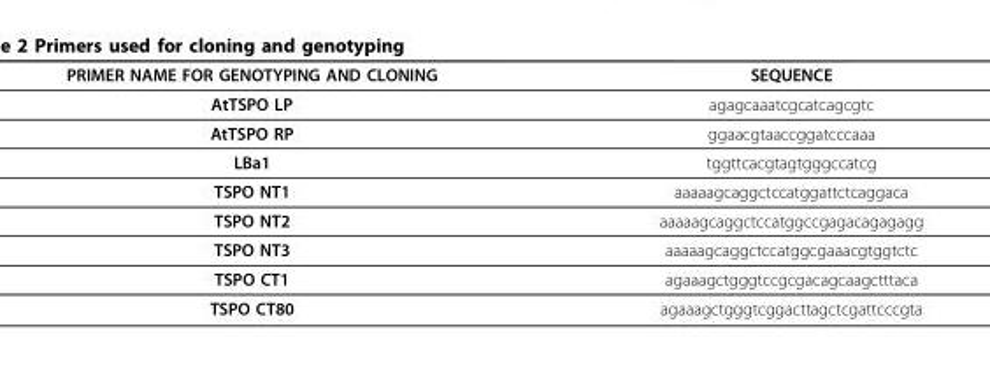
<table><thead><tr><td>PRIMER NAME FOR GENOTYPING AND CLONING</td><td>SEQUENCE</td></tr></thead><tbody><tr><td>AtTSPO LP</td><td>agagcaaatcgcatcagcgtc</td></tr><tr><td>AtTSPO RP</td><td>ggaacgtaaccggatcccaaa</td></tr><tr><td>LBa1</td><td>tggttcacgtagtgggccatcg</td></tr><tr><td>TSPO NT1</td><td>aaaaagcaggctccatggattctcaggaca</td></tr><tr><td>TSPO NT2</td><td>aaaaagcaggctccatggccgagacagagagg</td></tr><tr><td>TSPO NT3</td><td>aaaaagcaggctccatggcgaaacgtggtctc</td></tr><tr><td>TSPO CT1</td><td>agaaagctgggtccgcgacagcaagctttaca</td></tr><tr><td>TSPO CT80</td><td>agaaagctgggtcggacttagctcgattcccgta</td></tr></tbody></table>